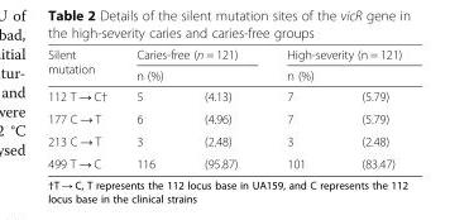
<table><thead><tr><td rowspan="3">Silent mutation 112 T → C†</td><td rowspan="2" colspan="2">Caries-free (n = 121) n (%)</td><td rowspan="2" colspan="2">High-severity (n = 121) n (%)</td></tr><tr></tr><tr><td>5</td><td>(4.13)</td><td>7</td><td>(5.79)</td></tr></thead><tbody><tr><td>177 C → T</td><td>6</td><td>(4.96)</td><td>7</td><td>(5.79)</td></tr><tr><td>213 C → T</td><td>3</td><td>(2.48)</td><td>3</td><td>(2.48)</td></tr><tr><td>499 T → C</td><td>116</td><td>(95.87)</td><td>101</td><td>(83.47)</td></tr></tbody></table>